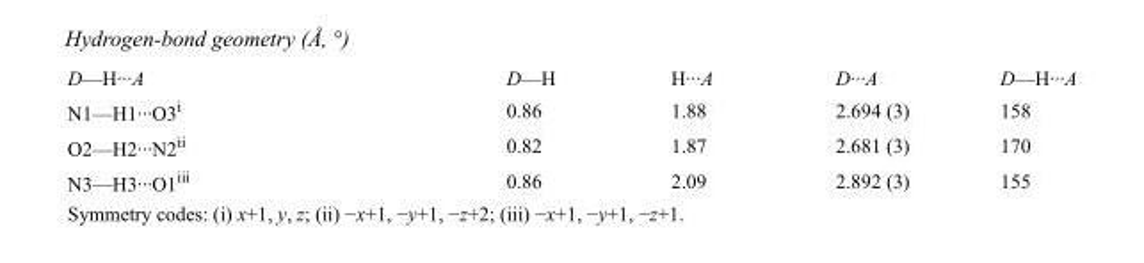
<table><tbody><tr><td>D—H···A</td><td>D—H</td><td>H···A</td><td>D···A</td><td>D—H···A</td></tr><tr><td>N1—H1···O3<sup>i</sup></td><td>0.86</td><td>1.88</td><td>2.694 (3)</td><td>158</td></tr><tr><td>O2—H2···N2<sup>ii</sup></td><td>0.82</td><td>1.87</td><td>2.681 (3)</td><td>170</td></tr><tr><td>N3—H3···O1<sup>iii</sup></td><td>0.86</td><td>2.09</td><td>2.892 (3)</td><td>155</td></tr></tbody></table>